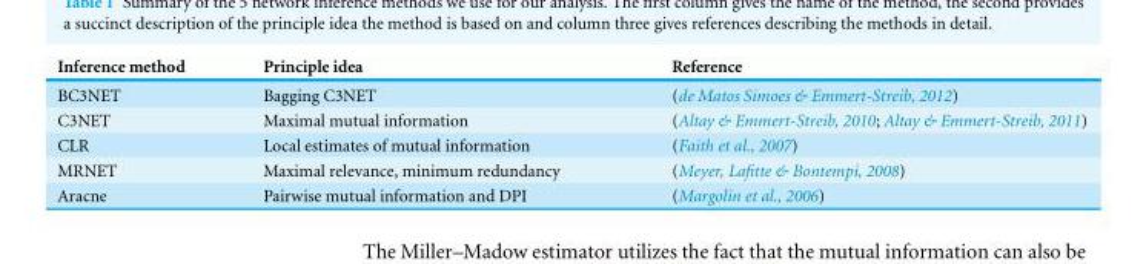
<table><thead><tr><td>Inference method</td><td>Principle idea</td><td>Reference</td></tr></thead><tbody><tr><td>BC3NET</td><td>Bagging C3NET</td><td>(de Matos Simoes &amp; Emmert-Streib, 2012)</td></tr><tr><td>C3NET</td><td>Maximal mutual information</td><td>(Altay &amp; Emmert-Streib, 2010; Altay &amp; Emmert-Streib, 2011)</td></tr><tr><td>CLR</td><td>Local estimates of mutual information</td><td>(Faith et al., 2007)</td></tr><tr><td>MRNET</td><td>Maximal relevance, minimum redundancy</td><td>(Meyer, Lafitte &amp; Bontempi, 2008)</td></tr><tr><td>Aracne</td><td>Pairwise mutual information and DPI</td><td>(Margolin et al., 2006)</td></tr></tbody></table>